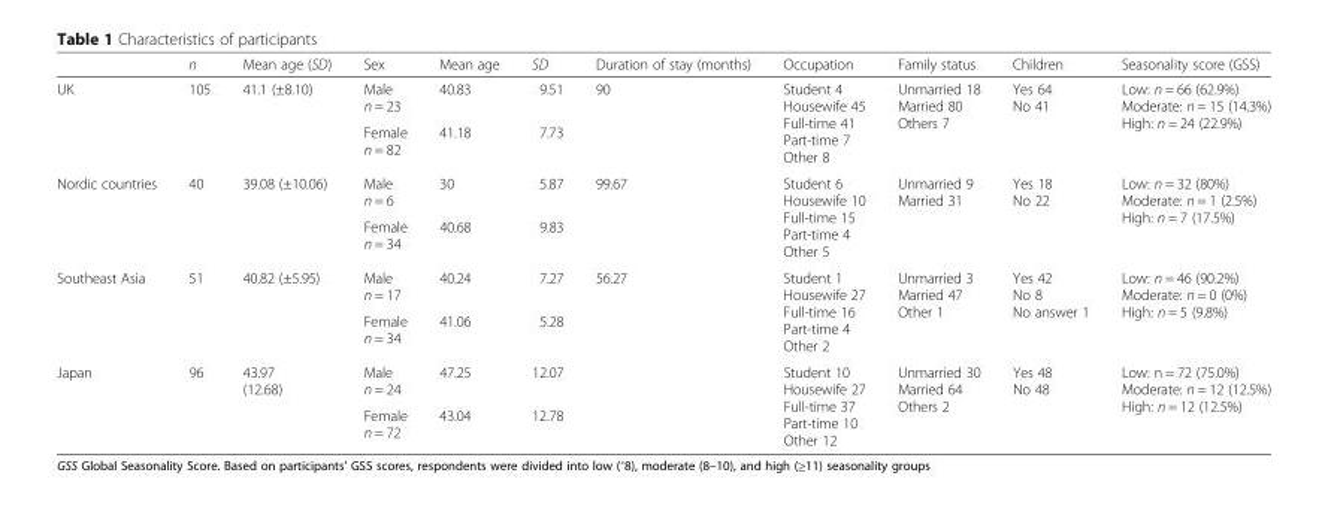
<table><thead><tr><td></td><td>n</td><td>Mean age (SD)</td><td>Sex</td><td>Mean age</td><td>SD</td><td>Duration of stay (months)</td><td>Occupation</td><td>Family status</td><td>Children</td><td>Seasonality score (GSS)</td></tr></thead><tbody><tr><td rowspan="2">UK</td><td rowspan="2">105</td><td rowspan="2">41.1 (±8.10)</td><td>Male n = 23</td><td>40.83</td><td>9.51</td><td rowspan="2">90</td><td rowspan="2">Student 4 Housewife 45 Full-time 41 Part-time 7 Other 8</td><td rowspan="2">Unmarried 18 Married 80 Others 7</td><td rowspan="2">Yes 64 No 41</td><td rowspan="2">Low: n = 66 (62.9%) Moderate: n = 15 (14.3%) High: n = 24 (22.9%)</td></tr><tr><td>Female n = 82</td><td>41.18</td><td>7.73</td></tr><tr><td rowspan="2">Nordic countries</td><td rowspan="2">40</td><td rowspan="2">39.08 (±10.06)</td><td>Male n = 6</td><td>30</td><td>5.87</td><td rowspan="2">99.67</td><td rowspan="2">Student 6 Housewife 10 Full-time 15 Part-time 4 Other 5</td><td rowspan="2">Unmarried 9 Married 31</td><td rowspan="2">Yes 18 No 22</td><td rowspan="2">Low: n = 32 (80%) Moderate: n = 1 (2.5%) High: n = 7 (17.5%)</td></tr><tr><td>Female n = 34</td><td>40.68</td><td>9.83</td></tr><tr><td rowspan="2">Southeast Asia</td><td rowspan="2">51</td><td rowspan="2">40.82 (±5.95)</td><td>Male n = 17</td><td>40.24</td><td>7.27</td><td rowspan="2">56.27</td><td rowspan="2">Student 1 Housewife 27 Full-time 16 Part-time 4 Other 2</td><td rowspan="2">Unmarried 3 Married 47 Other 1</td><td rowspan="2">Yes 42 No 8 No answer 1</td><td rowspan="2">Low: n = 46 (90.2%) Moderate: n = 0 (0%) High: n = 5 (9.8%)</td></tr><tr><td>Female n = 34</td><td>41.06</td><td>5.28</td></tr><tr><td rowspan="2">Japan</td><td rowspan="2">96</td><td rowspan="2">43.97 (12.68)</td><td>Male n = 24</td><td>47.25</td><td>12.07</td><td rowspan="2"></td><td rowspan="2">Student 10 Housewife 27 Full-time 37 Part-time 10 Other 12</td><td rowspan="2">Unmarried 30 Married 64 Others 2</td><td rowspan="2">Yes 48 No 48</td><td rowspan="2">Low: n = 72 (75.0%) Moderate: n = 12 (12.5%) High: n = 12 (12.5%)</td></tr><tr><td>Female n = 72</td><td>43.04</td><td>12.78</td></tr></tbody></table>